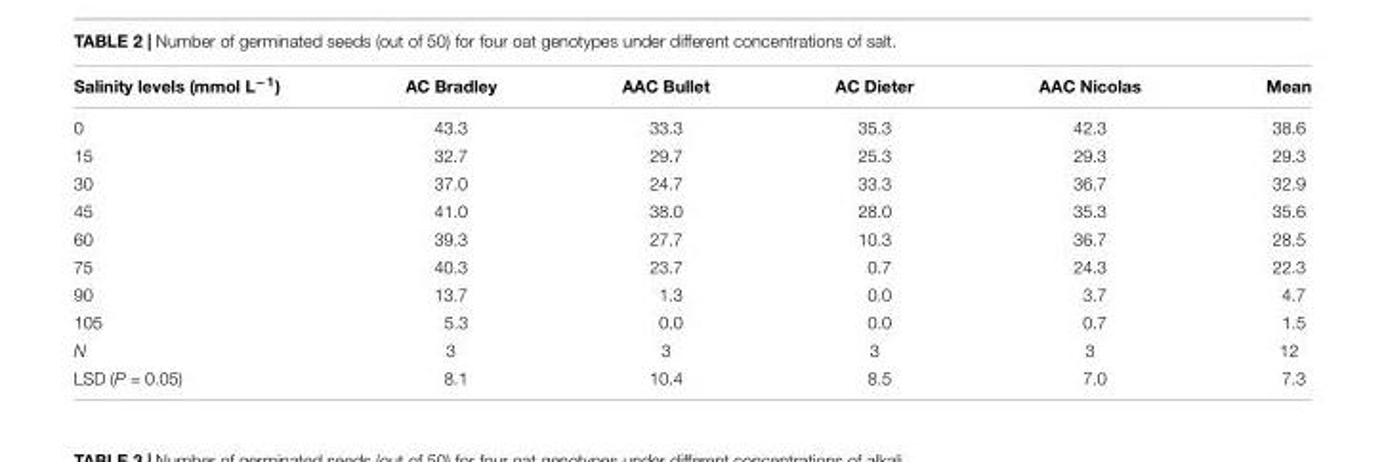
<table><thead><tr><td>Salinity levels (mmol L<sup>−1</sup>)</td><td>AC Bradley</td><td>AAC Bullet</td><td>AC Dieter</td><td>AAC Nicolas</td><td>Mean</td></tr></thead><tbody><tr><td>0</td><td>43.3</td><td>33.3</td><td>35.3</td><td>42.3</td><td>38.6</td></tr><tr><td>15</td><td>32.7</td><td>29.7</td><td>25.3</td><td>29.3</td><td>29.3</td></tr><tr><td>30</td><td>37.0</td><td>24.7</td><td>33.3</td><td>36.7</td><td>32.9</td></tr><tr><td>45</td><td>41.0</td><td>38.0</td><td>28.0</td><td>35.3</td><td>35.6</td></tr><tr><td>60</td><td>39.3</td><td>27.7</td><td>10.3</td><td>36.7</td><td>28.5</td></tr><tr><td>75</td><td>40.3</td><td>23.7</td><td>0.7</td><td>24.3</td><td>22.3</td></tr><tr><td>90</td><td>13.7</td><td>1.3</td><td>0.0</td><td>3.7</td><td>4.7</td></tr><tr><td>105</td><td>5.3</td><td>0.0</td><td>0.0</td><td>0.7</td><td>1.5</td></tr><tr><td>N</td><td>3</td><td>3</td><td>3</td><td>3</td><td>12</td></tr><tr><td>LSD (P = 0.05)</td><td>8.1</td><td>10.4</td><td>8.5</td><td>7.0</td><td>7.3</td></tr></tbody></table>